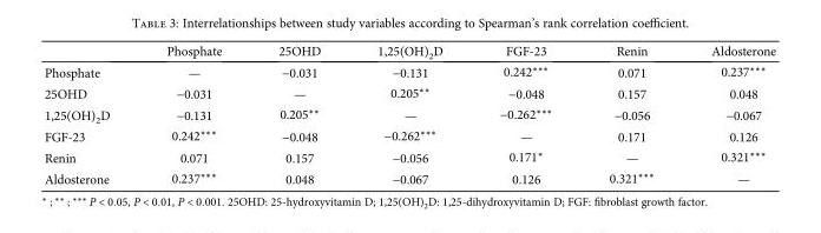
<table><thead><tr><td></td><td>Phosphate</td><td>25OHD</td><td>1,25(OH)<sub>2</sub>D</td><td>FGF-23</td><td>Renin</td><td>Aldosterone</td></tr></thead><tbody><tr><td>Phosphate</td><td>—</td><td>−0.031</td><td>−0.131</td><td>0.242∗∗∗</td><td>0.071</td><td>0.237∗∗∗</td></tr><tr><td>25OHD</td><td>−0.031</td><td>—</td><td>0.205∗∗</td><td>−0.048</td><td>0.157</td><td>0.048</td></tr><tr><td>1,25(OH)<sub>2</sub>D</td><td>−0.131</td><td>0.205∗∗</td><td>—</td><td>−0.262∗∗∗</td><td>−0.056</td><td>−0.067</td></tr><tr><td>FGF-23</td><td>0.242∗∗∗</td><td>−0.048</td><td>−0.262∗∗∗</td><td>—</td><td>0.171</td><td>0.126</td></tr><tr><td>Renin</td><td>0.071</td><td>0.157</td><td>−0.056</td><td>0.171∗</td><td>—</td><td>0.321∗∗∗</td></tr><tr><td>Aldosterone</td><td>0.237∗∗∗</td><td>0.048</td><td>−0.067</td><td>0.126</td><td>0.321∗∗∗</td><td>—</td></tr></tbody></table>